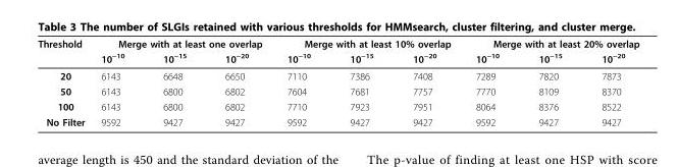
<table><thead><tr><td rowspan="2">Threshold</td><td colspan="3">Merge with at least one overlap</td><td colspan="3">Merge with at least 10% overlap</td><td colspan="3">Merge with at least 20% overlap</td></tr><tr><td>10<sup>−10</sup></td><td>10<sup>−15</sup></td><td>10<sup>−20</sup></td><td>10<sup>−10</sup></td><td>10<sup>−15</sup></td><td>10<sup>−20</sup></td><td>10<sup>−10</sup></td><td>10<sup>−15</sup></td><td>10<sup>−20</sup></td></tr></thead><tbody><tr><td>20</td><td>6143</td><td>6648</td><td>6650</td><td>7110</td><td>7386</td><td>7408</td><td>7289</td><td>7820</td><td>7873</td></tr><tr><td>50</td><td>6143</td><td>6800</td><td>6802</td><td>7604</td><td>7681</td><td>7757</td><td>7770</td><td>8109</td><td>8370</td></tr><tr><td>100</td><td>6143</td><td>6800</td><td>6802</td><td>7710</td><td>7923</td><td>7951</td><td>8064</td><td>8376</td><td>8522</td></tr><tr><td>No Filter</td><td>9592</td><td>9427</td><td>9427</td><td>9592</td><td>9427</td><td>9427</td><td>9592</td><td>9427</td><td>9427</td></tr></tbody></table>